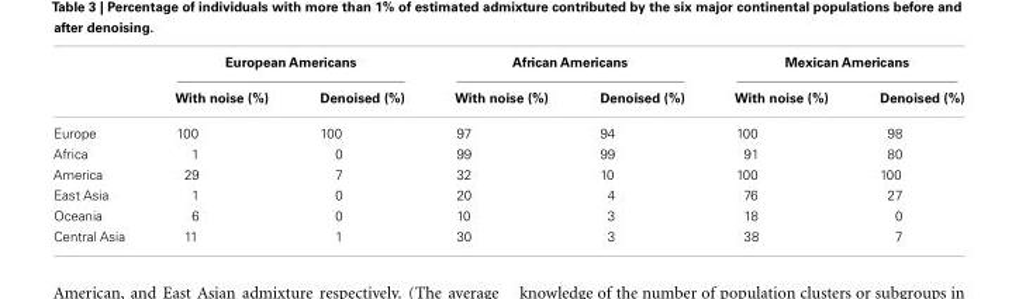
<table><thead><tr><td rowspan="2"></td><td colspan="2">European Americans</td><td colspan="2">African Americans</td><td colspan="2">Mexican Americans</td></tr><tr><td>With noise (%)</td><td>Denoised (%)</td><td>With noise (%)</td><td>Denoised (%)</td><td>With noise (%)</td><td>Denoised (%)</td></tr></thead><tbody><tr><td>Europe</td><td>100</td><td>100</td><td>97</td><td>94</td><td>100</td><td>98</td></tr><tr><td>Africa</td><td>1</td><td>0</td><td>99</td><td>99</td><td>91</td><td>80</td></tr><tr><td>America</td><td>29</td><td>7</td><td>32</td><td>10</td><td>100</td><td>100</td></tr><tr><td>East Asia</td><td>1</td><td>0</td><td>20</td><td>4</td><td>76</td><td>27</td></tr><tr><td>Oceania</td><td>6</td><td>0</td><td>10</td><td>3</td><td>18</td><td>0</td></tr><tr><td>Central Asia</td><td>11</td><td>1</td><td>30</td><td>3</td><td>38</td><td>7</td></tr></tbody></table>